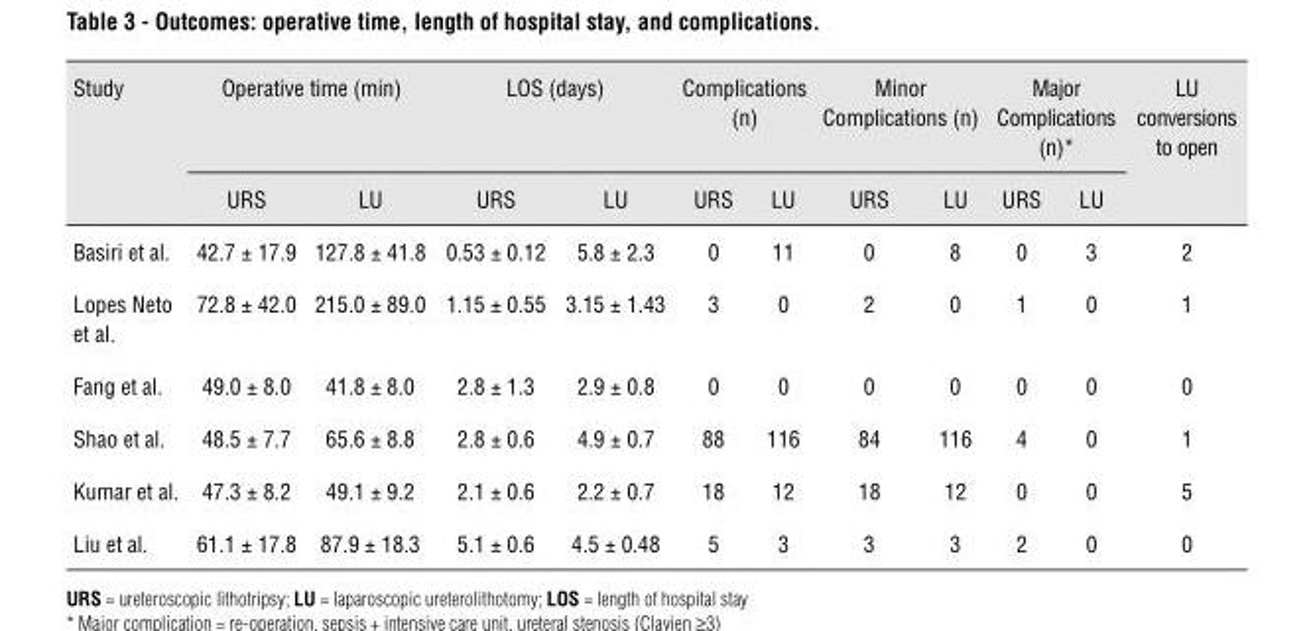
<table><thead><tr><td rowspan="2">Study</td><td colspan="2">Operative time (min)</td><td colspan="2">LOS (days)</td><td colspan="2">Complications (n)</td><td colspan="2">Minor Complications (n)</td><td colspan="2">Major Complications (n)*</td><td rowspan="2">LU conversions to open</td></tr><tr><td>URS</td><td>LU</td><td>URS</td><td>LU</td><td>URS</td><td>LU</td><td>URS</td><td>LU</td><td>URS</td><td>LU</td></tr></thead><tbody><tr><td>Basiri et al.</td><td>42.7 ± 17.9</td><td>127.8 ± 41.8</td><td>0.53 ± 0.12</td><td>5.8 ± 2.3</td><td>0</td><td>11</td><td>0</td><td>8</td><td>0</td><td>3</td><td>2</td></tr><tr><td>Lopes Neto et al.</td><td>72.8 ± 42.0</td><td>215.0 ± 89.0</td><td>1.15 ± 0.55</td><td>3.15 ± 1.43</td><td>3</td><td>0</td><td>2</td><td>0</td><td>1</td><td>0</td><td>1</td></tr><tr><td>Fang et al.</td><td>49.0 ± 8.0</td><td>41.8 ± 8.0</td><td>2.8 ± 1.3</td><td>2.9 ± 0.8</td><td>0</td><td>0</td><td>0</td><td>0</td><td>0</td><td>0</td><td>0</td></tr><tr><td>Shao et al.</td><td>48.5 ± 7.7</td><td>65.6 ± 8.8</td><td>2.8 ± 0.6</td><td>4.9 ± 0.7</td><td>88</td><td>116</td><td>84</td><td>116</td><td>4</td><td>0</td><td>1</td></tr><tr><td>Kumar et al.</td><td>47.3 ± 8.2</td><td>49.1 ± 9.2</td><td>2.1 ± 0.6</td><td>2.2 ± 0.7</td><td>18</td><td>12</td><td>18</td><td>12</td><td>0</td><td>0</td><td>5</td></tr><tr><td>Liu et al.</td><td>61.1 ± 17.8</td><td>87.9 ± 18.3</td><td>5.1 ± 0.6</td><td>4.5 ± 0.48</td><td>5</td><td>3</td><td>3</td><td>3</td><td>2</td><td>0</td><td>0</td></tr></tbody></table>